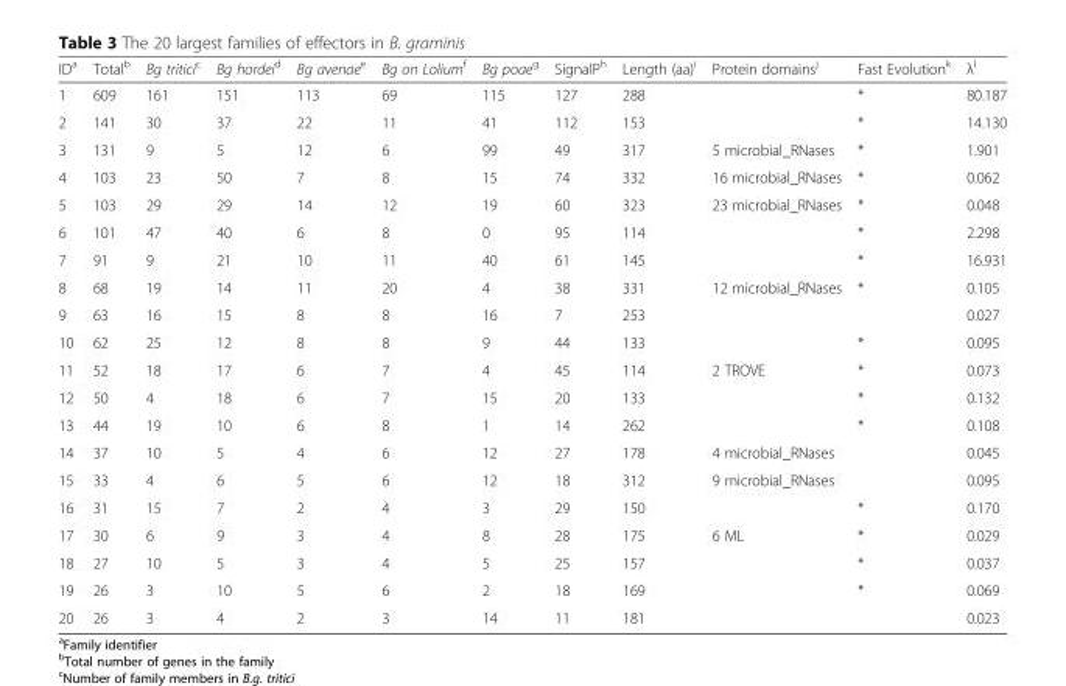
<table><thead><tr><td>ID<sup>a</sup></td><td>Total<sup>b</sup></td><td>Bg tritici<sup>c</sup></td><td>Bg hordei<sup>d</sup></td><td>Bg avenae<sup>e</sup></td><td>Bg on Lolium<sup>f</sup></td><td>Bg poae<sup>g</sup></td><td>SignalP<sup>h</sup></td><td>Length (aa)<sup>i</sup></td><td>Protein domains<sup>j</sup></td><td>Fast Evolution<sup>k</sup></td><td>λ<sup>l</sup></td></tr></thead><tbody><tr><td>1</td><td>609</td><td>161</td><td>151</td><td>113</td><td>69</td><td>115</td><td>127</td><td>288</td><td></td><td>*</td><td>80.187</td></tr><tr><td>2</td><td>141</td><td>30</td><td>37</td><td>22</td><td>11</td><td>41</td><td>112</td><td>153</td><td></td><td>*</td><td>14.130</td></tr><tr><td>3</td><td>131</td><td>9</td><td>5</td><td>12</td><td>6</td><td>99</td><td>49</td><td>317</td><td>5 microbial_RNases</td><td>*</td><td>1.901</td></tr><tr><td>4</td><td>103</td><td>23</td><td>50</td><td>7</td><td>8</td><td>15</td><td>74</td><td>332</td><td>16 microbial_RNases</td><td>*</td><td>0.062</td></tr><tr><td>5</td><td>103</td><td>29</td><td>29</td><td>14</td><td>12</td><td>19</td><td>60</td><td>323</td><td>23 microbial_RNases</td><td>*</td><td>0.048</td></tr><tr><td>6</td><td>101</td><td>47</td><td>40</td><td>6</td><td>8</td><td>0</td><td>95</td><td>114</td><td></td><td>*</td><td>2.298</td></tr><tr><td>7</td><td>91</td><td>9</td><td>21</td><td>10</td><td>11</td><td>40</td><td>61</td><td>145</td><td></td><td>*</td><td>16.931</td></tr><tr><td>8</td><td>68</td><td>19</td><td>14</td><td>11</td><td>20</td><td>4</td><td>38</td><td>331</td><td>12 microbial_RNases</td><td>*</td><td>0.105</td></tr><tr><td>9</td><td>63</td><td>16</td><td>15</td><td>8</td><td>8</td><td>16</td><td>7</td><td>253</td><td></td><td></td><td>0.027</td></tr><tr><td>10</td><td>62</td><td>25</td><td>12</td><td>8</td><td>8</td><td>9</td><td>44</td><td>133</td><td></td><td>*</td><td>0.095</td></tr><tr><td>11</td><td>52</td><td>18</td><td>17</td><td>6</td><td>7</td><td>4</td><td>45</td><td>114</td><td>2 TROVE</td><td>*</td><td>0.073</td></tr><tr><td>12</td><td>50</td><td>4</td><td>18</td><td>6</td><td>7</td><td>15</td><td>20</td><td>133</td><td></td><td>*</td><td>0.132</td></tr><tr><td>13</td><td>44</td><td>19</td><td>10</td><td>6</td><td>8</td><td>1</td><td>14</td><td>262</td><td></td><td>*</td><td>0.108</td></tr><tr><td>14</td><td>37</td><td>10</td><td>5</td><td>4</td><td>6</td><td>12</td><td>27</td><td>178</td><td>4 microbial_RNases</td><td></td><td>0.045</td></tr><tr><td>15</td><td>33</td><td>4</td><td>6</td><td>5</td><td>6</td><td>12</td><td>18</td><td>312</td><td>9 microbial_RNases</td><td></td><td>0.095</td></tr><tr><td>16</td><td>31</td><td>15</td><td>7</td><td>2</td><td>4</td><td>3</td><td>29</td><td>150</td><td></td><td>*</td><td>0.170</td></tr><tr><td>17</td><td>30</td><td>6</td><td>9</td><td>3</td><td>4</td><td>8</td><td>28</td><td>175</td><td>6 ML</td><td>*</td><td>0.029</td></tr><tr><td>18</td><td>27</td><td>10</td><td>5</td><td>3</td><td>4</td><td>5</td><td>25</td><td>157</td><td></td><td>*</td><td>0.037</td></tr><tr><td>19</td><td>26</td><td>3</td><td>10</td><td>5</td><td>6</td><td>2</td><td>18</td><td>169</td><td></td><td>*</td><td>0.069</td></tr><tr><td>20</td><td>26</td><td>3</td><td>4</td><td>2</td><td>3</td><td>14</td><td>11</td><td>181</td><td></td><td></td><td>0.023</td></tr></tbody></table>